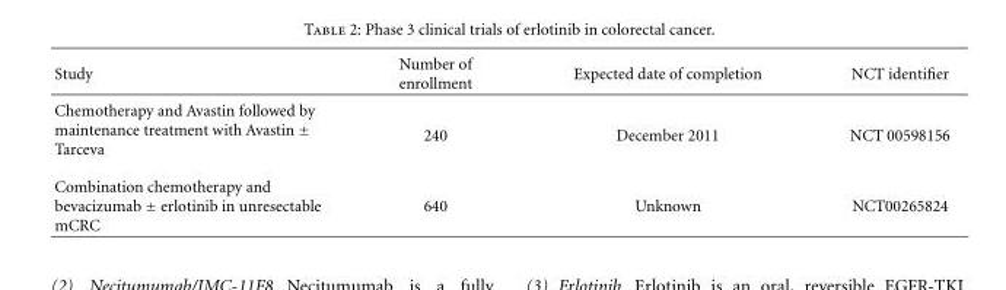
<table><thead><tr><td>Study</td><td>Number of enrollment</td><td>Expected date of completion</td><td>NCT identifier</td></tr></thead><tbody><tr><td>Chemotherapy and Avastin followed by maintenance treatment with Avastin ± Tarceva</td><td>240</td><td>December 2011</td><td>NCT 00598156</td></tr><tr><td>Combination chemotherapy and bevacizumab ± erlotinib in unresectable mCRC</td><td>640</td><td>Unknown</td><td>NCT00265824</td></tr></tbody></table>